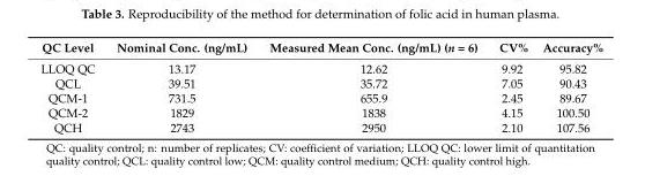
<table><thead><tr><td>QC Level</td><td>Nominal Conc. (ng/mL)</td><td>Measured Mean Conc. (ng/mL) (n = 6)</td><td>CV%</td><td>Accuracy%</td></tr></thead><tbody><tr><td>LLOQ QC</td><td>13.17</td><td>12.62</td><td>9.92</td><td>95.82</td></tr><tr><td>QCL</td><td>39.51</td><td>35.72</td><td>7.05</td><td>90.43</td></tr><tr><td>QCM-1</td><td>731.5</td><td>655.9</td><td>2.45</td><td>89.67</td></tr><tr><td>QCM-2</td><td>1829</td><td>1838</td><td>4.15</td><td>100.50</td></tr><tr><td>QCH</td><td>2743</td><td>2950</td><td>2.10</td><td>107.56</td></tr></tbody></table>